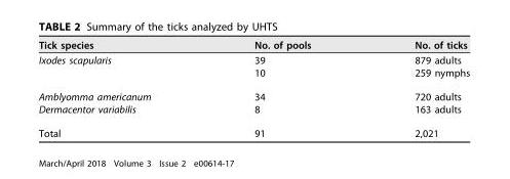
<table><thead><tr><td>Tick species</td><td>No. of pools</td><td>No. of ticks</td></tr></thead><tbody><tr><td rowspan="2">Ixodes scapularis</td><td>39</td><td>879 adults</td></tr><tr><td>10</td><td>259 nymphs</td></tr><tr><td>Amblyomma americanum</td><td>34</td><td>720 adults</td></tr><tr><td>Dermacentor variabilis</td><td>8</td><td>163 adults</td></tr><tr><td>Total</td><td>91</td><td>2,021</td></tr></tbody></table>